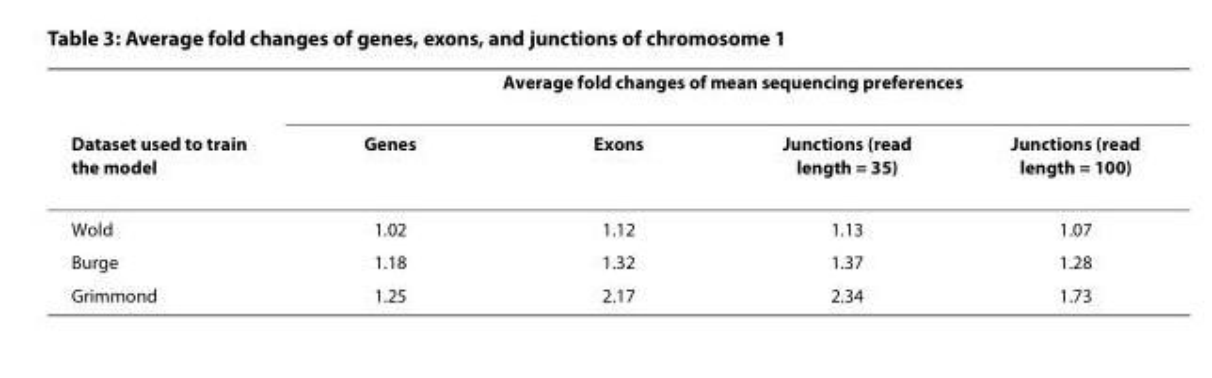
<table><thead><tr><td rowspan="2">Dataset used to train the model</td><td colspan="4">Average fold changes of mean sequencing preferences</td></tr><tr><td>Genes</td><td>Exons</td><td>Junctions (read length = 35)</td><td>Junctions (read length = 100)</td></tr></thead><tbody><tr><td>Wold</td><td>1.02</td><td>1.12</td><td>1.13</td><td>1.07</td></tr><tr><td>Burge</td><td>1.18</td><td>1.32</td><td>1.37</td><td>1.28</td></tr><tr><td>Grimmond</td><td>1.25</td><td>2.17</td><td>2.34</td><td>1.73</td></tr></tbody></table>